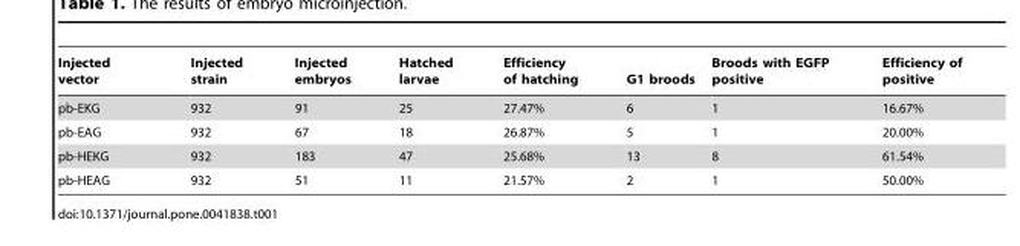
<table><thead><tr><td>Injected vector</td><td>Injected strain</td><td>Injected embryos</td><td>Hatched larvae</td><td>Efficiency of hatching</td><td>G1 broods</td><td>Broods with EGFP positive</td><td>Efficiency of positive</td></tr></thead><tbody><tr><td>pb-EKG</td><td>932</td><td>91</td><td>25</td><td>27.47%</td><td>6</td><td>1</td><td>16.67%</td></tr><tr><td>pb-EAG</td><td>932</td><td>67</td><td>18</td><td>26.87%</td><td>5</td><td>1</td><td>20.00%</td></tr><tr><td>pb-HEKG</td><td>932</td><td>183</td><td>47</td><td>25.68%</td><td>13</td><td>8</td><td>61.54%</td></tr><tr><td>pb-HEAG</td><td>932</td><td>51</td><td>11</td><td>21.57%</td><td>2</td><td>1</td><td>50.00%</td></tr></tbody></table>